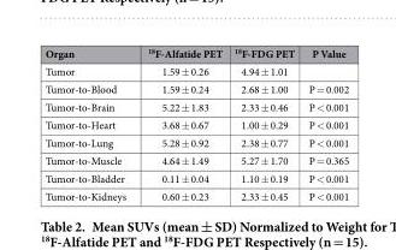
<table><thead><tr><td>Organ</td><td><sup>18</sup>F-Alfatide PET</td><td><sup>18</sup>F-FDG PET</td><td>P Value</td></tr></thead><tbody><tr><td>Tumor</td><td>1.59 ± 0.26</td><td>4.94 ± 1.01</td><td></td></tr><tr><td>Tumor-to-Blood</td><td>1.59 ± 0.24</td><td>2.68 ± 1.00</td><td>P = 0.002</td></tr><tr><td>Tumor-to-Brain</td><td>5.22 ± 1.83</td><td>2.33 ± 0.46</td><td>P &lt; 0.001</td></tr><tr><td>Tumor-to-Heart</td><td>3.68 ± 0.67</td><td>1.00 ± 0.29</td><td>P &lt; 0.001</td></tr><tr><td>Tumor-to-Lung</td><td>5.28 ± 0.92</td><td>2.38 ± 0.77</td><td>P &lt; 0.001</td></tr><tr><td>Tumor-to-Muscle</td><td>4.64 ± 1.49</td><td>5.27 ± 1.70</td><td>P = 0.365</td></tr><tr><td>Tumor-to-Bladder</td><td>0.11 ± 0.04</td><td>1.10 ± 0.19</td><td>P &lt; 0.001</td></tr><tr><td>Tumor-to-Kidneys</td><td>0.60 ± 0.23</td><td>2.33 ± 0.45</td><td>P &lt; 0.001</td></tr></tbody></table>